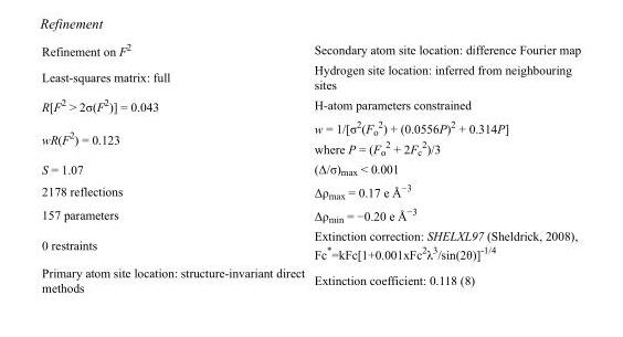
<table><tbody><tr><td>Refinement on F<sup>2</sup></td><td>Secondary atom site location: difference Fourier map</td></tr><tr><td>Least-squares matrix: full</td><td>Hydrogen site location: inferred from neighbouring sites</td></tr><tr><td>R[F<sup>2</sup> &gt; 2σ(F<sup>2</sup>)] = 0.043</td><td>H-atom parameters constrained</td></tr><tr><td>wR(F<sup>2</sup>) = 0.123</td><td>w = 1/[σ<sup>2</sup>(F<sub>o</sub> <sup>2</sup>) + (0.0556P)<sup>2</sup> + 0.314P] where P = (F<sub>o</sub> <sup>2</sup> + 2F<sub>c</sub> <sup>2</sup>)/3</td></tr><tr><td>S = 1.07</td><td>(Δ/σ)<sub>max</sub> &lt; 0.001</td></tr><tr><td>2178 reflections</td><td>Δρ<sub>max</sub> = 0.17 e Å<sup>−3</sup></td></tr><tr><td>157 parameters</td><td>Δρ<sub>min</sub> = −0.20 e Å<sup>−3</sup></td></tr><tr><td>0 restraints</td><td>Extinction correction: SHELXL97 (Sheldrick, 2008), Fc*=kFc[1+0.001xFc<sup>2</sup>λ<sup>3</sup>/sin(2θ)]<sup>-1/4</sup></td></tr><tr><td>Primary atom site location: structure-invariant direct methods</td><td>Extinction coefficient: 0.118 (8)</td></tr></tbody></table>